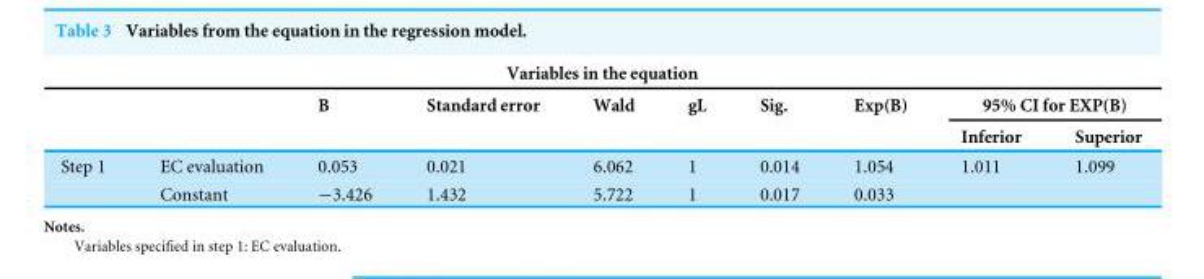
<table><thead><tr><td colspan="10">Variables in the equation</td></tr><tr><td rowspan="2"></td><td rowspan="2"></td><td rowspan="2">B</td><td rowspan="2">Standard error</td><td rowspan="2">Wald</td><td rowspan="2">gL</td><td rowspan="2">Sig.</td><td rowspan="2">Exp(B)</td><td colspan="2">95% CI for EXP(B)</td></tr><tr><td>Inferior</td><td>Superior</td></tr></thead><tbody><tr><td rowspan="2">Step 1</td><td>EC evaluation</td><td>0.053</td><td>0.021</td><td>6.062</td><td>1</td><td>0.014</td><td>1.054</td><td>1.011</td><td>1.099</td></tr><tr><td>Constant</td><td>−3.426</td><td>1.432</td><td>5.722</td><td>1</td><td>0.017</td><td>0.033</td><td></td><td></td></tr></tbody></table>